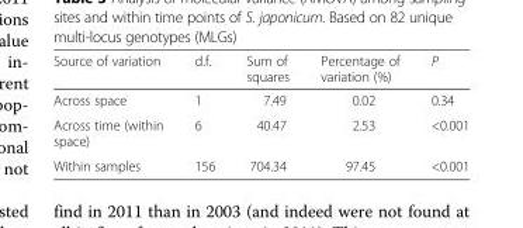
<table><thead><tr><td>Source of variation</td><td>d.f.</td><td>Sum of squares</td><td>Percentage of variation (%)</td><td>P</td></tr></thead><tbody><tr><td>Across space</td><td>1</td><td>7.49</td><td>0.02</td><td>0.34</td></tr><tr><td>Across time (within space)</td><td>6</td><td>40.47</td><td>2.53</td><td>&lt;0.001</td></tr><tr><td>Within samples</td><td>156</td><td>704.34</td><td>97.45</td><td>&lt;0.001</td></tr></tbody></table>